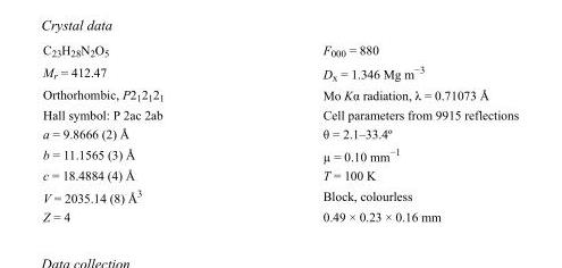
<table><tbody><tr><td>C<sub>23</sub>H<sub>28</sub>N<sub>2</sub>O<sub>5</sub></td><td>F000 = 880</td></tr><tr><td>M<sub>r</sub> = 412.47</td><td>D<sub>x</sub> = 1.346 Mg m<sup>−3</sup></td></tr><tr><td>Orthorhombic, P2<sub>1</sub>2<sub>1</sub>2<sub>1</sub></td><td>Mo Kα radiation, λ = 0.71073 Å</td></tr><tr><td>Hall symbol: P 2ac 2ab</td><td>Cell parameters from 9915 reflections</td></tr><tr><td>a = 9.8666 (2) Å</td><td>θ = 2.1–33.4º</td></tr><tr><td>b = 11.1565 (3) Å</td><td>µ = 0.10 mm<sup>−1</sup></td></tr><tr><td>c = 18.4884 (4) Å</td><td>T = 100 K</td></tr><tr><td>V = 2035.14 (8) Å<sup>3</sup></td><td>Block, colourless</td></tr><tr><td>Z = 4</td><td>0.49 × 0.23 × 0.16 mm</td></tr></tbody></table>